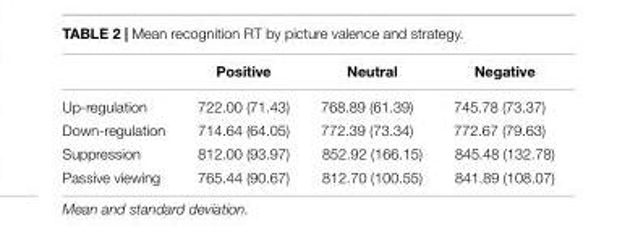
<table><thead><tr><td></td><td>Positive</td><td>Neutral</td><td>Negative</td></tr></thead><tbody><tr><td>Up-regulation</td><td>722.00 (71.43)</td><td>768.89 (61.39)</td><td>745.78 (73.37)</td></tr><tr><td>Down-regulation</td><td>714.64 (64.05)</td><td>772.39 (73.34)</td><td>772.67 (79.63)</td></tr><tr><td>Suppression</td><td>812.00 (93.97)</td><td>852.92 (166.15)</td><td>845.48 (132.78)</td></tr><tr><td>Passive viewing</td><td>765.44 (90.67)</td><td>812.70 (100.55)</td><td>841.89 (108.07)</td></tr></tbody></table>